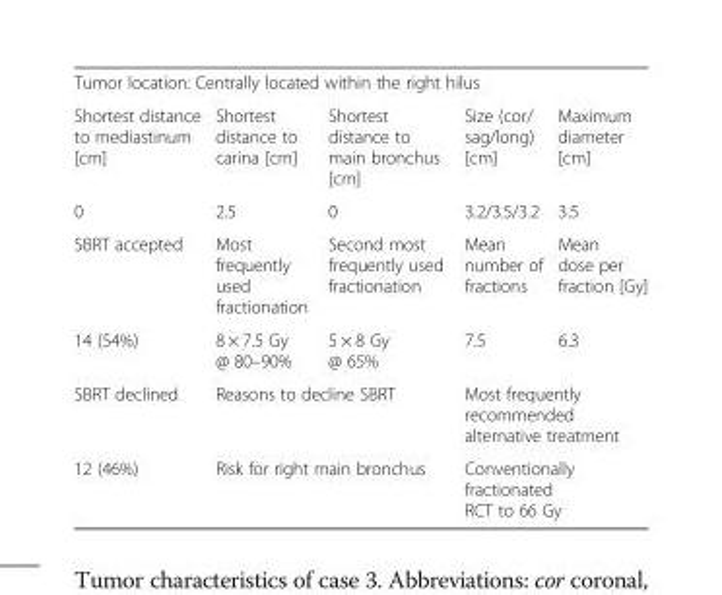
<table><tbody><tr><td colspan="5">Tumor location: Centrally located within the right hilus</td></tr><tr><td>Shortest distance to mediastinum [cm]</td><td>Shortest distance to carina [cm]</td><td>Shortest distance to main bronchus [cm]</td><td>Size (cor/ sag/long) [cm]</td><td>Maximum diameter [cm]</td></tr><tr><td>0</td><td>2.5</td><td>0</td><td>3.2/3.5/3.2</td><td>3.5</td></tr><tr><td>SBRT accepted</td><td>Most frequently used fractionation</td><td>Second most frequently used fractionation</td><td>Mean number of fractions</td><td>Mean dose per fraction [Gy]</td></tr><tr><td>14 (54%)</td><td>8 × 7.5 Gy @ 80–90%</td><td>5 × 8 Gy @ 65%</td><td>7.5</td><td>6.3</td></tr><tr><td>SBRT declined</td><td colspan="2">Reasons to decline SBRT</td><td colspan="2">Most frequently recommended alternative treatment</td></tr><tr><td>12 (46%)</td><td colspan="2">Risk for right main bronchus</td><td colspan="2">Conventionally fractionated RCT to 66 Gy</td></tr></tbody></table>